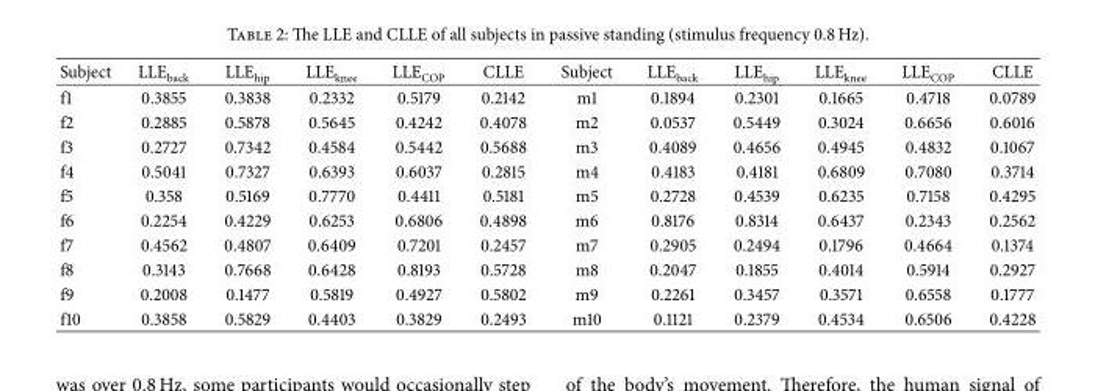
<table><thead><tr><td>Subject</td><td>LLE<sub>back</sub></td><td>LLE<sub>hip</sub></td><td>LLE<sub>knee</sub></td><td>LLE<sub>COP</sub></td><td>CLLE</td><td>Subject</td><td>LLE<sub>back</sub></td><td>LLE<sub>hip</sub></td><td>LLE<sub>knee</sub></td><td>LLE<sub>COP</sub></td><td>CLLE</td></tr></thead><tbody><tr><td>f1</td><td>0.3855</td><td>0.3838</td><td>0.2332</td><td>0.5179</td><td>0.2142</td><td>m1</td><td>0.1894</td><td>0.2301</td><td>0.1665</td><td>0.4718</td><td>0.0789</td></tr><tr><td>f2</td><td>0.2885</td><td>0.5878</td><td>0.5645</td><td>0.4242</td><td>0.4078</td><td>m2</td><td>0.0537</td><td>0.5449</td><td>0.3024</td><td>0.6656</td><td>0.6016</td></tr><tr><td>f3</td><td>0.2727</td><td>0.7342</td><td>0.4584</td><td>0.5442</td><td>0.5688</td><td>m3</td><td>0.4089</td><td>0.4656</td><td>0.4945</td><td>0.4832</td><td>0.1067</td></tr><tr><td>f4</td><td>0.5041</td><td>0.7327</td><td>0.6393</td><td>0.6037</td><td>0.2815</td><td>m4</td><td>0.4183</td><td>0.4181</td><td>0.6809</td><td>0.7080</td><td>0.3714</td></tr><tr><td>f5</td><td>0.358</td><td>0.5169</td><td>0.7770</td><td>0.4411</td><td>0.5181</td><td>m5</td><td>0.2728</td><td>0.4539</td><td>0.6235</td><td>0.7158</td><td>0.4295</td></tr><tr><td>f6</td><td>0.2254</td><td>0.4229</td><td>0.6253</td><td>0.6806</td><td>0.4898</td><td>m6</td><td>0.8176</td><td>0.8314</td><td>0.6437</td><td>0.2343</td><td>0.2562</td></tr><tr><td>f7</td><td>0.4562</td><td>0.4807</td><td>0.6409</td><td>0.7201</td><td>0.2457</td><td>m7</td><td>0.2905</td><td>0.2494</td><td>0.1796</td><td>0.4664</td><td>0.1374</td></tr><tr><td>f8</td><td>0.3143</td><td>0.7668</td><td>0.6428</td><td>0.8193</td><td>0.5728</td><td>m8</td><td>0.2047</td><td>0.1855</td><td>0.4014</td><td>0.5914</td><td>0.2927</td></tr><tr><td>f9</td><td>0.2008</td><td>0.1477</td><td>0.5819</td><td>0.4927</td><td>0.5802</td><td>m9</td><td>0.2261</td><td>0.3457</td><td>0.3571</td><td>0.6558</td><td>0.1777</td></tr><tr><td>f10</td><td>0.3858</td><td>0.5829</td><td>0.4403</td><td>0.3829</td><td>0.2493</td><td>m10</td><td>0.1121</td><td>0.2379</td><td>0.4534</td><td>0.6506</td><td>0.4228</td></tr></tbody></table>